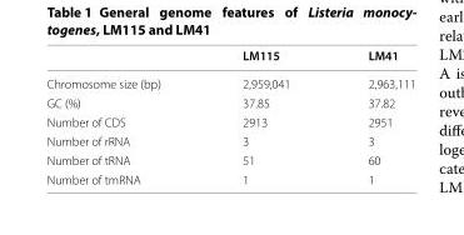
<table><thead><tr><td></td><td>LM115</td><td>LM41</td></tr></thead><tbody><tr><td>Chromosome size (bp)</td><td>2,959,041</td><td>2,963,111</td></tr><tr><td>GC (%)</td><td>37.85</td><td>37.82</td></tr><tr><td>Number of CDS</td><td>2913</td><td>2951</td></tr><tr><td>Number of rRNA</td><td>3</td><td>3</td></tr><tr><td>Number of tRNA</td><td>51</td><td>60</td></tr><tr><td>Number of tmRNA</td><td>1</td><td>1</td></tr></tbody></table>